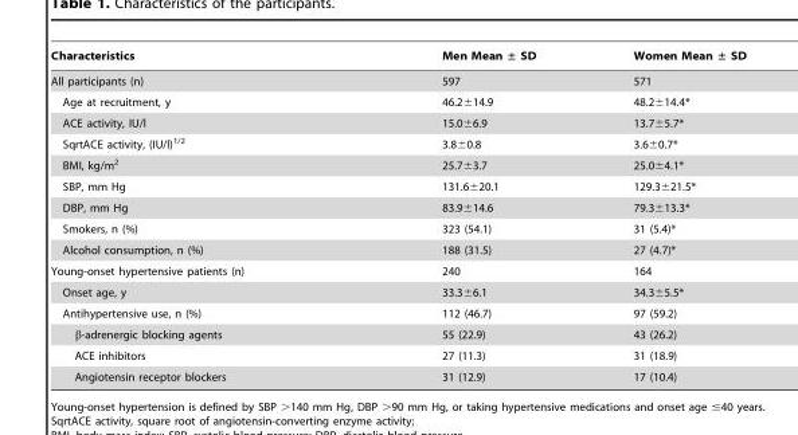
<table><thead><tr><td>Characteristics</td><td>Men Mean ± SD</td><td>Women Mean ± SD</td></tr></thead><tbody><tr><td>All participants (n)</td><td>597</td><td>571</td></tr><tr><td>Age at recruitment, y</td><td>46.2±14.9</td><td>48.2±14.4*</td></tr><tr><td>ACE activity, IU/l</td><td>15.0±6.9</td><td>13.7±5.7*</td></tr><tr><td>SqrtACE activity, (IU/l)<sup>1/2</sup></td><td>3.8±0.8</td><td>3.6±0.7*</td></tr><tr><td>BMI, kg/m<sup>2</sup></td><td>25.7±3.7</td><td>25.0±4.1*</td></tr><tr><td>SBP, mm Hg</td><td>131.6±20.1</td><td>129.3±21.5*</td></tr><tr><td>DBP, mm Hg</td><td>83.9±14.6</td><td>79.3±13.3*</td></tr><tr><td>Smokers, n (%)</td><td>323 (54.1)</td><td>31 (5.4)*</td></tr><tr><td>Alcohol consumption, n (%)</td><td>188 (31.5)</td><td>27 (4.7)*</td></tr><tr><td>Young-onset hypertensive patients (n)</td><td>240</td><td>164</td></tr><tr><td>Onset age, y</td><td>33.3±6.1</td><td>34.3±5.5*</td></tr><tr><td>Antihypertensive use, n (%)</td><td>112 (46.7)</td><td>97 (59.2)</td></tr><tr><td>β-adrenergic blocking agents</td><td>55 (22.9)</td><td>43 (26.2)</td></tr><tr><td>ACE inhibitors</td><td>27 (11.3)</td><td>31 (18.9)</td></tr><tr><td>Angiotensin receptor blockers</td><td>31 (12.9)</td><td>17 (10.4)</td></tr></tbody></table>